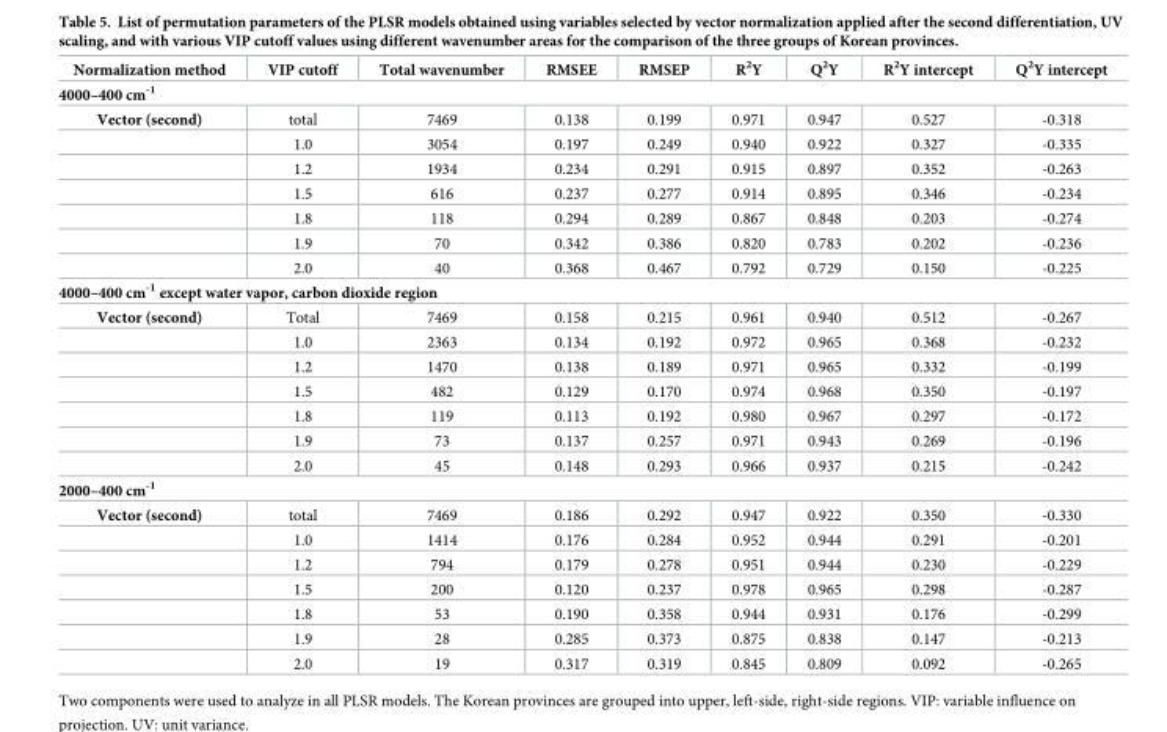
<table><thead><tr><td>Normalization method</td><td>VIP cutoff</td><td>Total wavenumber</td><td>RMSEE</td><td>RMSEP</td><td>R<sup>2</sup>Y</td><td>Q<sup>2</sup>Y</td><td>R<sup>2</sup>Y intercept</td><td>Q<sup>2</sup>Y intercept</td></tr></thead><tbody><tr><td colspan="9">4000–400 cm<sup>-1</sup></td></tr><tr><td rowspan="7">Vector (second)</td><td>total</td><td>7469</td><td>0.138</td><td>0.199</td><td>0.971</td><td>0.947</td><td>0.527</td><td>-0.318</td></tr><tr><td>1.0</td><td>3054</td><td>0.197</td><td>0.249</td><td>0.940</td><td>0.922</td><td>0.327</td><td>-0.335</td></tr><tr><td>1.2</td><td>1934</td><td>0.234</td><td>0.291</td><td>0.915</td><td>0.897</td><td>0.352</td><td>-0.263</td></tr><tr><td>1.5</td><td>616</td><td>0.237</td><td>0.277</td><td>0.914</td><td>0.895</td><td>0.346</td><td>-0.234</td></tr><tr><td>1.8</td><td>118</td><td>0.294</td><td>0.289</td><td>0.867</td><td>0.848</td><td>0.203</td><td>-0.274</td></tr><tr><td>1.9</td><td>70</td><td>0.342</td><td>0.386</td><td>0.820</td><td>0.783</td><td>0.202</td><td>-0.236</td></tr><tr><td>2.0</td><td>40</td><td>0.368</td><td>0.467</td><td>0.792</td><td>0.729</td><td>0.150</td><td>-0.225</td></tr><tr><td colspan="9">4000–400 cm<sup>-1</sup> except water vapor, carbon dioxide region</td></tr><tr><td rowspan="7">Vector (second)</td><td>Total</td><td>7469</td><td>0.158</td><td>0.215</td><td>0.961</td><td>0.940</td><td>0.512</td><td>-0.267</td></tr><tr><td>1.0</td><td>2363</td><td>0.134</td><td>0.192</td><td>0.972</td><td>0.965</td><td>0.368</td><td>-0.232</td></tr><tr><td>1.2</td><td>1470</td><td>0.138</td><td>0.189</td><td>0.971</td><td>0.965</td><td>0.332</td><td>-0.199</td></tr><tr><td>1.5</td><td>482</td><td>0.129</td><td>0.170</td><td>0.974</td><td>0.968</td><td>0.350</td><td>-0.197</td></tr><tr><td>1.8</td><td>119</td><td>0.113</td><td>0.192</td><td>0.980</td><td>0.967</td><td>0.297</td><td>-0.172</td></tr><tr><td>1.9</td><td>73</td><td>0.137</td><td>0.257</td><td>0.971</td><td>0.943</td><td>0.269</td><td>-0.196</td></tr><tr><td>2.0</td><td>45</td><td>0.148</td><td>0.293</td><td>0.966</td><td>0.937</td><td>0.215</td><td>-0.242</td></tr><tr><td colspan="9">2000–400 cm<sup>-1</sup></td></tr><tr><td rowspan="7">Vector (second)</td><td>total</td><td>7469</td><td>0.186</td><td>0.292</td><td>0.947</td><td>0.922</td><td>0.350</td><td>-0.330</td></tr><tr><td>1.0</td><td>1414</td><td>0.176</td><td>0.284</td><td>0.952</td><td>0.944</td><td>0.291</td><td>-0.201</td></tr><tr><td>1.2</td><td>794</td><td>0.179</td><td>0.278</td><td>0.951</td><td>0.944</td><td>0.230</td><td>-0.229</td></tr><tr><td>1.5</td><td>200</td><td>0.120</td><td>0.237</td><td>0.978</td><td>0.965</td><td>0.298</td><td>-0.287</td></tr><tr><td>1.8</td><td>53</td><td>0.190</td><td>0.358</td><td>0.944</td><td>0.931</td><td>0.176</td><td>-0.299</td></tr><tr><td>1.9</td><td>28</td><td>0.285</td><td>0.373</td><td>0.875</td><td>0.838</td><td>0.147</td><td>-0.213</td></tr><tr><td>2.0</td><td>19</td><td>0.317</td><td>0.319</td><td>0.845</td><td>0.809</td><td>0.092</td><td>-0.265</td></tr></tbody></table>